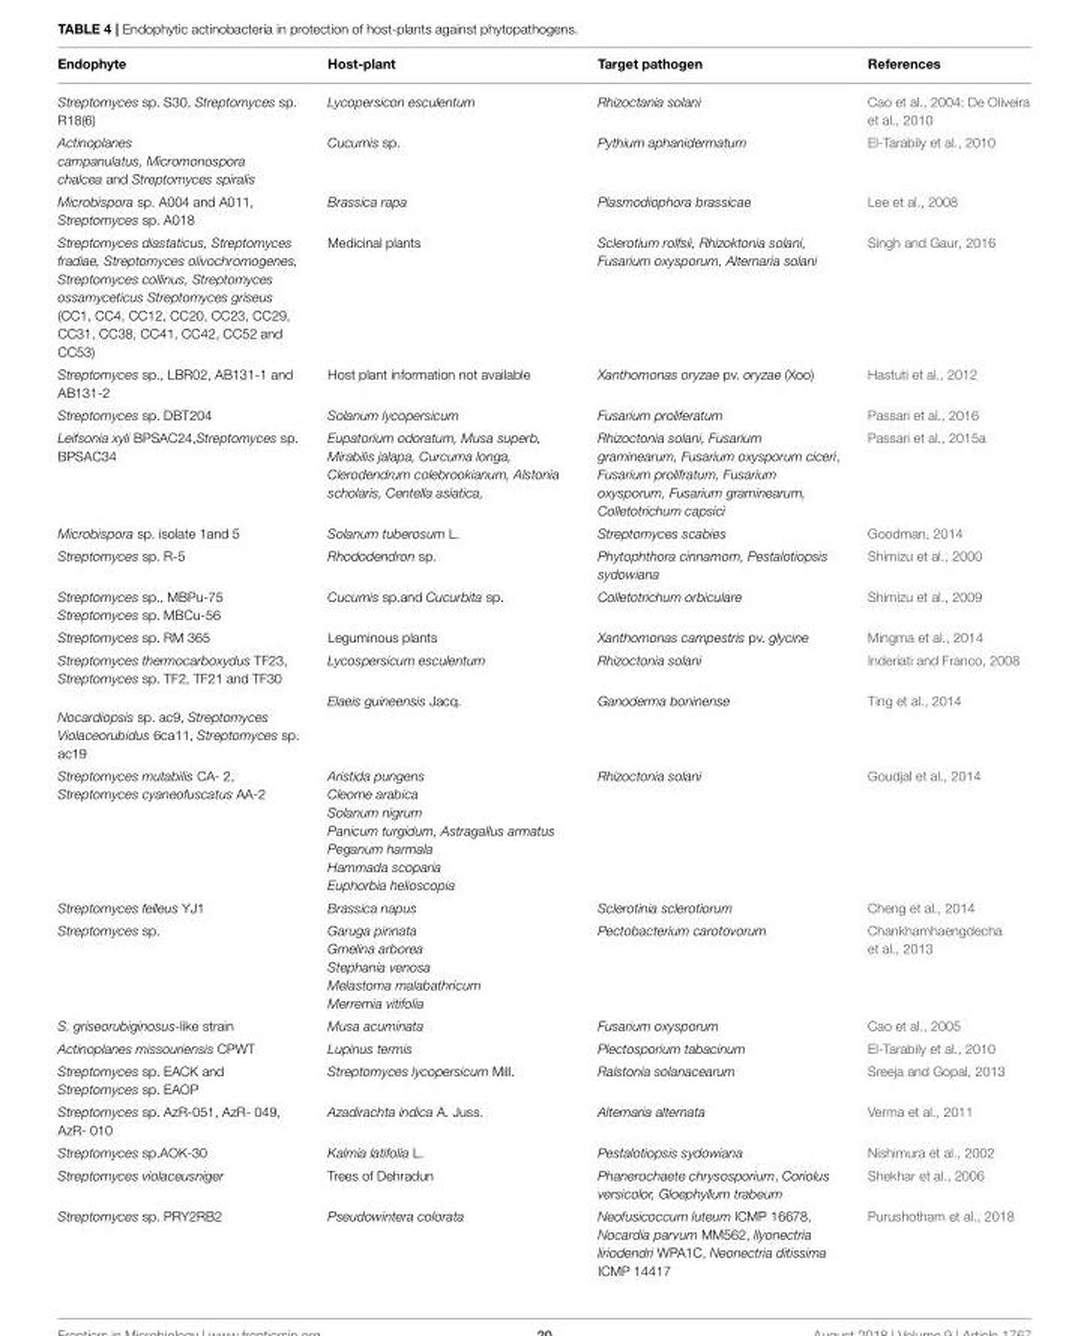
<table><thead><tr><td>Endophyte</td><td>Host-plant</td><td>Target pathogen</td><td>References</td></tr></thead><tbody><tr><td>Streptomyces sp. S30, Streptomyces sp. R18(6)</td><td>Lycopersicon esculentum</td><td>Rhizoctania solani</td><td>Cao et al., 2004; De Oliveira et al., 2010</td></tr><tr><td>Actinoplanes campanulatus, Micromonospora chalcea and Streptomyces spiralis</td><td>Cucumis sp.</td><td>Pythium aphanidermatum</td><td>El-Tarabily et al., 2010</td></tr><tr><td>Microbispora sp. A004 and A011, Streptomyces sp. A018</td><td>Brassica rapa</td><td>Plasmodiophora brassicae</td><td>Lee et al., 2008</td></tr><tr><td>Streptomyces diastaticus, Streptomyces fradiae, Streptomyces olivochromogenes, Streptomyces collinus, Streptomyces ossamyceticus Streptomyces griseus (CC1, CC4, CC12, CC20, CC23, CC29, CC31, CC38, CC41, CC42, CC52 and CC53)</td><td>Medicinal plants</td><td>Sclerotium rolfsii, Rhizoktonia solani, Fusarium oxysporum, Alternaria solani</td><td>Singh and Gaur, 2016</td></tr><tr><td>Streptomyces sp., LBR02, AB131-1 and AB131-2</td><td>Host plant information not available</td><td>Xanthomonas oryzae pv. oryzae (Xoo)</td><td>Hastuti et al., 2012</td></tr><tr><td>Streptomyces sp. DBT204</td><td>Solanum lycopersicum</td><td>Fusarium proliferatum</td><td>Passari et al., 2016</td></tr><tr><td>Leifsonia xyli BPSAC24,Streptomyces sp. BPSAC34</td><td>Eupatorium odoratum, Musa superb, Mirabilis jalapa, Curcuma longa, Clerodendrum colebrookianum, Alstonia scholaris, Centella asiatica,</td><td>Rhizoctonia solani, Fusarium graminearum, Fusarium oxysporum ciceri, Fusarium prolifratum, Fusarium oxysporum, Fusarium graminearum, Colletotrichum capsici</td><td>Passari et al., 2015a</td></tr><tr><td>Microbispora sp. isolate 1and 5</td><td>Solanum tuberosum L.</td><td>Streptomyces scabies</td><td>Goodman, 2014</td></tr><tr><td>Streptomyces sp. R-5</td><td>Rhododendron sp.</td><td>Phytophthora cinnamom, Pestalotiopsis sydowiana</td><td>Shimizu et al., 2000</td></tr><tr><td>Streptomyces sp., MBPu-75 Streptomyces sp. MBCu-56</td><td>Cucumis sp.and Cucurbita sp.</td><td>Colletotrichum orbiculare</td><td>Shimizu et al., 2009</td></tr><tr><td>Streptomyces sp. RM 365</td><td>Leguminous plants</td><td>Xanthomonas campestris pv. glycine</td><td>Mingma et al., 2014</td></tr><tr><td>Streptomyces thermocarboxydus TF23, Streptomyces sp. TF2, TF21 and TF30</td><td>Lycospersicum esculentum</td><td>Rhizoctonia solani</td><td>Inderiati and Franco, 2008</td></tr><tr><td>Nocardiopsis sp. ac9, Streptomyces Violaceorubidus 6ca11, Streptomyces sp. ac19</td><td>Elaeis guineensis Jacq.</td><td>Ganoderma boninense</td><td>Ting et al., 2014</td></tr><tr><td>Streptomyces mutabilis CA- 2, Streptomyces cyaneofuscatus AA-2</td><td>Aristida pungens Cleome arabica Solanum nigrum Panicum turgidum, Astragallus armatus Peganum harmala Hammada scoparia Euphorbia helioscopia</td><td>Rhizoctonia solani</td><td>Goudjal et al., 2014</td></tr><tr><td>Streptomyces felleus YJ1</td><td>Brassica napus</td><td>Sclerotinia sclerotiorum</td><td>Cheng et al., 2014</td></tr><tr><td>Streptomyces sp.</td><td>Garuga pinnata Gmelina arborea Stephania venosa Melastoma malabathricum Merremia vitifolia</td><td>Pectobacterium carotovorum</td><td>Chankhamhaengdecha et al., 2013</td></tr><tr><td>S. griseorubiginosus-like strain</td><td>Musa acuminata</td><td>Fusarium oxysporum</td><td>Cao et al., 2005</td></tr><tr><td>Actinoplanes missouriensis CPWT</td><td>Lupinus termis</td><td>Plectosporium tabacinum</td><td>El-Tarabily et al., 2010</td></tr><tr><td>Streptomyces sp. EACK and Streptomyces sp. EAOP</td><td>Streptomyces lycopersicum Mill.</td><td>Ralstonia solanacearum</td><td>Sreeja and Gopal, 2013</td></tr><tr><td>Streptomyces sp. AzR-051, AzR- 049, AzR- 010</td><td>Azadirachta indica A. Juss.</td><td>Alternaria alternata</td><td>Verma et al., 2011</td></tr><tr><td>Streptomyces sp.AOK-30</td><td>Kalmia latifolia L.</td><td>Pestalotiopsis sydowiana</td><td>Nishimura et al., 2002</td></tr><tr><td>Streptomyces violaceusniger</td><td>Trees of Dehradun</td><td>Phanerochaete chrysosporium, Coriolus versicolor, Gloephyllum trabeum</td><td>Shekhar et al., 2006</td></tr><tr><td>Streptomyces sp. PRY2RB2</td><td>Pseudowintera colorata</td><td>Neofusicoccum luteum ICMP 16678, Nocardia parvum MM562, Ilyonectria liriodendri WPA1C, Neonectria ditissima ICMP 14417</td><td>Purushotham et al., 2018</td></tr></tbody></table>